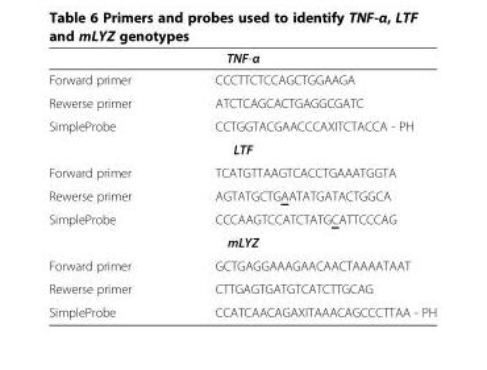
<table><thead><tr><td colspan="2">TNF-α</td></tr><tr><td>Forward primer</td><td>CCCTTCTCCAGCTGGAAGA</td></tr></thead><tbody><tr><td>Rewerse primer</td><td>ATCTCAGCACTGAGGCGATC</td></tr><tr><td>SimpleProbe</td><td>CCTGGTACGAACCCAXITCTACCA - PH</td></tr><tr><td colspan="2">LTF</td></tr><tr><td>Forward primer</td><td>TCATGTTAAGTCACCTGAAATGGTA</td></tr><tr><td>Rewerse primer</td><td>AGTATGCTGAATATGATACTGGCA</td></tr><tr><td>SimpleProbe</td><td>CCCAAGTCCATCTATGCATTCCCAG</td></tr><tr><td colspan="2">mLYZ</td></tr><tr><td>Forward primer</td><td>GCTGAGGAAAGAACAACTAAAATAAT</td></tr><tr><td>Rewerse primer</td><td>CTTGAGTGATGTCATCTTGCAG</td></tr><tr><td>SimpleProbe</td><td>CCATCAACAGAXITAAACAGCCCTTAA - PH</td></tr></tbody></table>